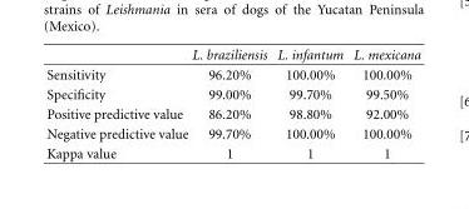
<table><thead><tr><td></td><td>L. braziliensis</td><td>L. infantum</td><td>L. mexicana</td></tr></thead><tbody><tr><td>Sensitivity</td><td>96.20%</td><td>100.00%</td><td>100.00%</td></tr><tr><td>Specificity</td><td>99.00%</td><td>99.70%</td><td>99.50%</td></tr><tr><td>Positive predictive value</td><td>86.20%</td><td>98.80%</td><td>92.00%</td></tr><tr><td>Negative predictive value</td><td>99.70%</td><td>100.00%</td><td>100.00%</td></tr><tr><td>Kappa value</td><td>1</td><td>1</td><td>1</td></tr></tbody></table>